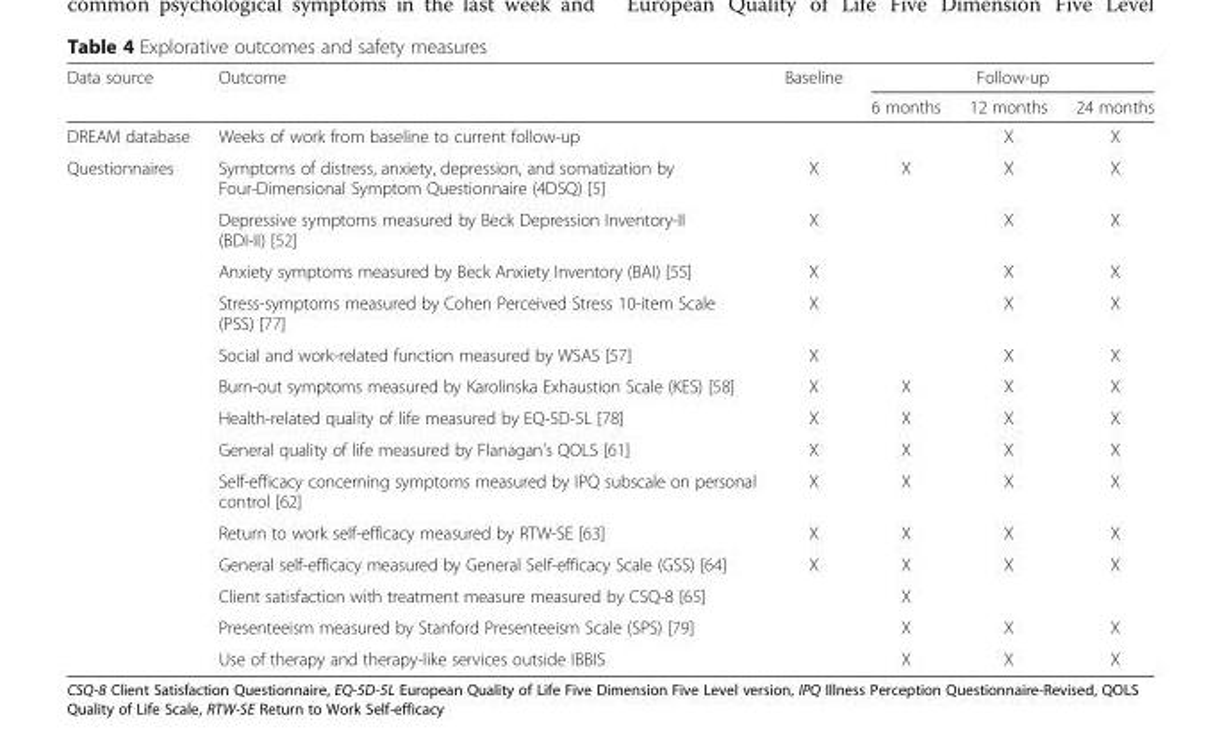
<table><thead><tr><td rowspan="2">Data source</td><td rowspan="2">Outcome</td><td rowspan="2">Baseline</td><td colspan="3">Follow-up</td></tr><tr><td>6 months</td><td>12 months</td><td>24 months</td></tr></thead><tbody><tr><td>DREAM database</td><td>Weeks of work from baseline to current follow-up</td><td></td><td></td><td>X</td><td>X</td></tr><tr><td rowspan="14">Questionnaires</td><td>Symptoms of distress, anxiety, depression, and somatization by Four-Dimensional Symptom Questionnaire (4DSQ) [5]</td><td>X</td><td>X</td><td>X</td><td>X</td></tr><tr><td>Depressive symptoms measured by Beck Depression Inventory-II (BDI-II) [52]</td><td>X</td><td></td><td>X</td><td>X</td></tr><tr><td>Anxiety symptoms measured by Beck Anxiety Inventory (BAI) [55]</td><td>X</td><td></td><td>X</td><td>X</td></tr><tr><td>Stress-symptoms measured by Cohen Perceived Stress 10-item Scale (PSS) [77]</td><td>X</td><td></td><td>X</td><td>X</td></tr><tr><td>Social and work-related function measured by WSAS [57]</td><td>X</td><td></td><td>X</td><td>X</td></tr><tr><td>Burn-out symptoms measured by Karolinska Exhaustion Scale (KES) [58]</td><td>X</td><td>X</td><td>X</td><td>X</td></tr><tr><td>Health-related quality of life measured by EQ-5D-5L [78]</td><td>X</td><td>X</td><td>X</td><td>X</td></tr><tr><td>General quality of life measured by Flanagan’s QOLS [61]</td><td>X</td><td>X</td><td>X</td><td>X</td></tr><tr><td>Self-efficacy concerning symptoms measured by IPQ subscale on personal control [62]</td><td>X</td><td>X</td><td>X</td><td>X</td></tr><tr><td>Return to work self-efficacy measured by RTW-SE [63]</td><td>X</td><td>X</td><td>X</td><td>X</td></tr><tr><td>General self-efficacy measured by General Self-efficacy Scale (GSS) [64]</td><td>X</td><td>X</td><td>X</td><td>X</td></tr><tr><td>Client satisfaction with treatment measure measured by CSQ-8 [65]</td><td></td><td>X</td><td></td><td></td></tr><tr><td>Presenteeism measured by Stanford Presenteeism Scale (SPS) [79]</td><td></td><td>X</td><td>X</td><td>X</td></tr><tr><td>Use of therapy and therapy-like services outside IBBIS</td><td></td><td>X</td><td>X</td><td>X</td></tr></tbody></table>